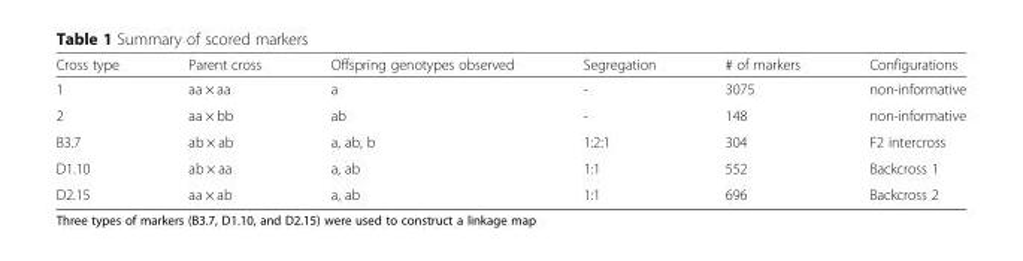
<table><thead><tr><td>Cross type</td><td>Parent cross</td><td>Offspring genotypes observed</td><td>Segregation</td><td># of markers</td><td>Configurations</td></tr></thead><tbody><tr><td>1</td><td>aa × aa</td><td>a</td><td>-</td><td>3075</td><td>non-informative</td></tr><tr><td>2</td><td>aa × bb</td><td>ab</td><td>-</td><td>148</td><td>non-informative</td></tr><tr><td>B3.7</td><td>ab × ab</td><td>a, ab, b</td><td>1:2:1</td><td>304</td><td>F2 intercross</td></tr><tr><td>D1.10</td><td>ab × aa</td><td>a, ab</td><td>1:1</td><td>552</td><td>Backcross 1</td></tr><tr><td>D2.15</td><td>aa × ab</td><td>a, ab</td><td>1:1</td><td>696</td><td>Backcross 2</td></tr></tbody></table>